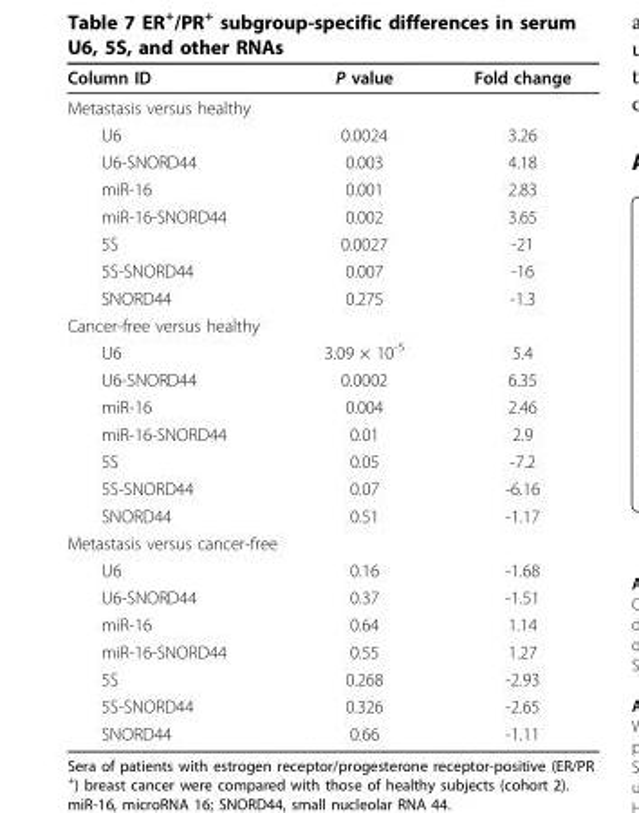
<table><thead><tr><td>Column ID</td><td>P value</td><td>Fold change</td></tr></thead><tbody><tr><td colspan="3">Metastasis versus healthy</td></tr><tr><td>U6</td><td>0.0024</td><td>3.26</td></tr><tr><td>U6-SNORD44</td><td>0.003</td><td>4.18</td></tr><tr><td>miR-16</td><td>0.001</td><td>2.83</td></tr><tr><td>miR-16-SNORD44</td><td>0.002</td><td>3.65</td></tr><tr><td>5S</td><td>0.0027</td><td>-21</td></tr><tr><td>5S-SNORD44</td><td>0.007</td><td>-16</td></tr><tr><td>SNORD44</td><td>0.275</td><td>-1.3</td></tr><tr><td colspan="3">Cancer-free versus healthy</td></tr><tr><td>U6</td><td>3.09 × 10<sup>-5</sup></td><td>5.4</td></tr><tr><td>U6-SNORD44</td><td>0.0002</td><td>6.35</td></tr><tr><td>miR-16</td><td>0.004</td><td>2.46</td></tr><tr><td>miR-16-SNORD44</td><td>0.01</td><td>2.9</td></tr><tr><td>5S</td><td>0.05</td><td>-7.2</td></tr><tr><td>5S-SNORD44</td><td>0.07</td><td>-6.16</td></tr><tr><td>SNORD44</td><td>0.51</td><td>-1.17</td></tr><tr><td colspan="3">Metastasis versus cancer-free</td></tr><tr><td>U6</td><td>0.16</td><td>-1.68</td></tr><tr><td>U6-SNORD44</td><td>0.37</td><td>-1.51</td></tr><tr><td>miR-16</td><td>0.64</td><td>1.14</td></tr><tr><td>miR-16-SNORD44</td><td>0.55</td><td>1.27</td></tr><tr><td>5S</td><td>0.268</td><td>-2.93</td></tr><tr><td>5S-SNORD44</td><td>0.326</td><td>-2.65</td></tr><tr><td>SNORD44</td><td>0.66</td><td>-1.11</td></tr></tbody></table>